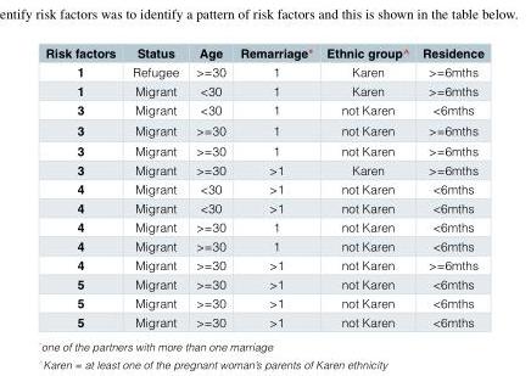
<table><thead><tr><td>Risk factors</td><td>Status</td><td>Age</td><td>Remarriage*</td><td>Ethnic group^</td><td>Residence</td></tr></thead><tbody><tr><td>1</td><td>Refugee</td><td>&gt;=30</td><td>1</td><td>Karen</td><td>&gt;=6mths</td></tr><tr><td>1</td><td>Migrant</td><td>&lt;30</td><td>1</td><td>Karen</td><td>&gt;=6mths</td></tr><tr><td>3</td><td>Migrant</td><td>&lt;30</td><td>1</td><td>not Karen</td><td>&lt;6mths</td></tr><tr><td>3</td><td>Migrant</td><td>&gt;=30</td><td>1</td><td>not Karen</td><td>&gt;=6mths</td></tr><tr><td>3</td><td>Migrant</td><td>&gt;=30</td><td>1</td><td>not Karen</td><td>&gt;=6mths</td></tr><tr><td>3</td><td>Migrant</td><td>&gt;=30</td><td>&gt;1</td><td>Karen</td><td>&gt;=6mths</td></tr><tr><td>4</td><td>Migrant</td><td>&lt;30</td><td>&gt;1</td><td>not Karen</td><td>&lt;6mths</td></tr><tr><td>4</td><td>Migrant</td><td>&lt;30</td><td>&gt;1</td><td>not Karen</td><td>&lt;6mths</td></tr><tr><td>4</td><td>Migrant</td><td>&gt;=30</td><td>1</td><td>not Karen</td><td>&lt;6mths</td></tr><tr><td>4</td><td>Migrant</td><td>&gt;=30</td><td>1</td><td>not Karen</td><td>&lt;6mths</td></tr><tr><td>4</td><td>Migrant</td><td>&gt;=30</td><td>&gt;1</td><td>not Karen</td><td>&gt;=6mths</td></tr><tr><td>5</td><td>Migrant</td><td>&gt;=30</td><td>&gt;1</td><td>not Karen</td><td>&lt;6mths</td></tr><tr><td>5</td><td>Migrant</td><td>&gt;=30</td><td>&gt;1</td><td>not Karen</td><td>&lt;6mths</td></tr><tr><td>5</td><td>Migrant</td><td>&gt;=30</td><td>&gt;1</td><td>not Karen</td><td>&lt;6mths</td></tr></tbody></table>